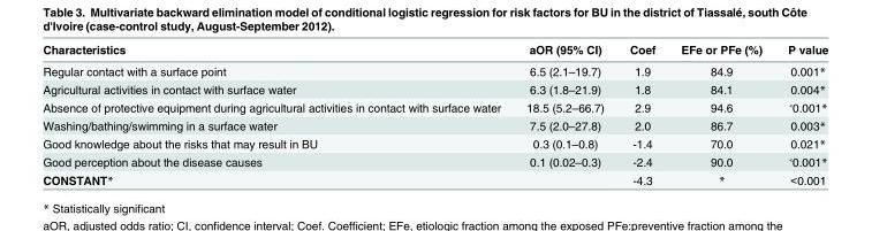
<table><thead><tr><td>Characteristics</td><td>aOR (95% CI)</td><td>Coef</td><td>EFe or PFe (%)</td><td>P value</td></tr></thead><tbody><tr><td>Regular contact with a surface point</td><td>6.5 (2.1–19.7)</td><td>1.9</td><td>84.9</td><td>0.001*</td></tr><tr><td>Agricultural activities in contact with surface water</td><td>6.3 (1.8–21.9)</td><td>1.8</td><td>84.1</td><td>0.004*</td></tr><tr><td>Absence of protective equipment during agricultural activities in contact with surface water</td><td>18.5 (5.2–66.7)</td><td>2.9</td><td>94.6</td><td>˂0.001*</td></tr><tr><td>Washing/bathing/swimming in a surface water</td><td>7.5 (2.0–27.8)</td><td>2.0</td><td>86.7</td><td>0.003*</td></tr><tr><td>Good knowledge about the risks that may result in BU</td><td>0.3 (0.1–0.8)</td><td>-1.4</td><td>70.0</td><td>0.021*</td></tr><tr><td>Good perception about the disease causes</td><td>0.1 (0.02–0.3)</td><td>-2.4</td><td>90.0</td><td>˂0.001*</td></tr><tr><td>CONSTANT*</td><td></td><td>-4.3</td><td>*</td><td>&lt;0.001</td></tr></tbody></table>